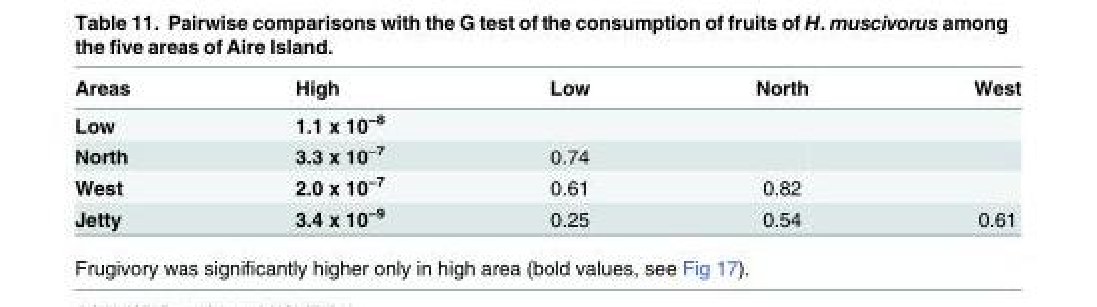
<table><thead><tr><td>Areas</td><td>High</td><td>Low</td><td>North</td><td>West</td></tr></thead><tbody><tr><td>Low</td><td>1.1 x 10<sup>−8</sup></td><td></td><td></td><td></td></tr><tr><td>North</td><td>3.3 x 10<sup>−7</sup></td><td>0.74</td><td></td><td></td></tr><tr><td>West</td><td>2.0 x 10<sup>−7</sup></td><td>0.61</td><td>0.82</td><td></td></tr><tr><td>Jetty</td><td>3.4 x 10<sup>−9</sup></td><td>0.25</td><td>0.54</td><td>0.61</td></tr></tbody></table>